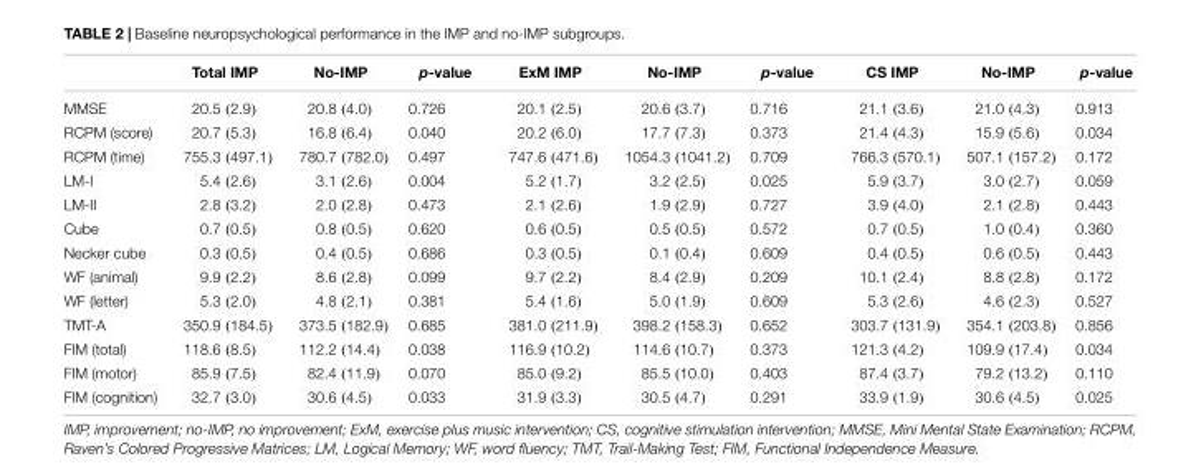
<table><thead><tr><td></td><td>Total IMP</td><td>No-IMP</td><td>p-value</td><td>ExM IMP</td><td>No-IMP</td><td>p-value</td><td>CS IMP</td><td>No-IMP</td><td>p-value</td></tr></thead><tbody><tr><td>MMSE</td><td>20.5 (2.9)</td><td>20.8 (4.0)</td><td>0.726</td><td>20.1 (2.5)</td><td>20.6 (3.7)</td><td>0.716</td><td>21.1 (3.6)</td><td>21.0 (4.3)</td><td>0.913</td></tr><tr><td>RCPM (score)</td><td>20.7 (5.3)</td><td>16.8 (6.4)</td><td>0.040</td><td>20.2 (6.0)</td><td>17.7 (7.3)</td><td>0.373</td><td>21.4 (4.3)</td><td>15.9 (5.6)</td><td>0.034</td></tr><tr><td>RCPM (time)</td><td>755.3 (497.1)</td><td>780.7 (782.0)</td><td>0.497</td><td>747.6 (471.6)</td><td>1054.3 (1041.2)</td><td>0.709</td><td>766.3 (570.1)</td><td>507.1 (157.2)</td><td>0.172</td></tr><tr><td>LM-I</td><td>5.4 (2.6)</td><td>3.1 (2.6)</td><td>0.004</td><td>5.2 (1.7)</td><td>3.2 (2.5)</td><td>0.025</td><td>5.9 (3.7)</td><td>3.0 (2.7)</td><td>0.059</td></tr><tr><td>LM-II</td><td>2.8 (3.2)</td><td>2.0 (2.8)</td><td>0.473</td><td>2.1 (2.6)</td><td>1.9 (2.9)</td><td>0.727</td><td>3.9 (4.0)</td><td>2.1 (2.8)</td><td>0.443</td></tr><tr><td>Cube</td><td>0.7 (0.5)</td><td>0.8 (0.5)</td><td>0.620</td><td>0.6 (0.5)</td><td>0.5 (0.5)</td><td>0.572</td><td>0.7 (0.5)</td><td>1.0 (0.4)</td><td>0.360</td></tr><tr><td>Necker cube</td><td>0.3 (0.5)</td><td>0.4 (0.5)</td><td>0.686</td><td>0.3 (0.5)</td><td>0.1 (0.4)</td><td>0.609</td><td>0.4 (0.5)</td><td>0.6 (0.5)</td><td>0.443</td></tr><tr><td>WF (animal)</td><td>9.9 (2.2)</td><td>8.6 (2.8)</td><td>0.099</td><td>9.7 (2.2)</td><td>8.4 (2.9)</td><td>0.209</td><td>10.1 (2.4)</td><td>8.8 (2.8)</td><td>0.172</td></tr><tr><td>WF (letter)</td><td>5.3 (2.0)</td><td>4.8 (2.1)</td><td>0.381</td><td>5.4 (1.6)</td><td>5.0 (1.9)</td><td>0.609</td><td>5.3 (2.6)</td><td>4.6 (2.3)</td><td>0.527</td></tr><tr><td>TMT-A</td><td>350.9 (184.5)</td><td>373.5 (182.9)</td><td>0.685</td><td>381.0 (211.9)</td><td>398.2 (158.3)</td><td>0.652</td><td>303.7 (131.9)</td><td>354.1 (203.8)</td><td>0.856</td></tr><tr><td>FIM (total)</td><td>118.6 (8.5)</td><td>112.2 (14.4)</td><td>0.038</td><td>116.9 (10.2)</td><td>114.6 (10.7)</td><td>0.373</td><td>121.3 (4.2)</td><td>109.9 (17.4)</td><td>0.034</td></tr><tr><td>FIM (motor)</td><td>85.9 (7.5)</td><td>82.4 (11.9)</td><td>0.070</td><td>85.0 (9.2)</td><td>85.5 (10.0)</td><td>0.403</td><td>87.4 (3.7)</td><td>79.2 (13.2)</td><td>0.110</td></tr><tr><td>FIM (cognition)</td><td>32.7 (3.0)</td><td>30.6 (4.5)</td><td>0.033</td><td>31.9 (3.3)</td><td>30.5 (4.7)</td><td>0.291</td><td>33.9 (1.9)</td><td>30.6 (4.5)</td><td>0.025</td></tr></tbody></table>